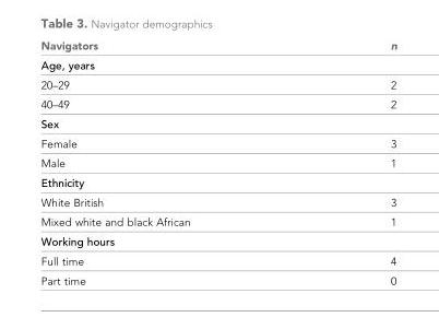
<table><thead><tr><td>Navigators</td><td>n</td></tr></thead><tbody><tr><td colspan="2">Age, years</td></tr><tr><td>20–29</td><td>2</td></tr><tr><td>40–49</td><td>2</td></tr><tr><td colspan="2">Sex</td></tr><tr><td>Female</td><td>3</td></tr><tr><td>Male</td><td>1</td></tr><tr><td colspan="2">Ethnicity</td></tr><tr><td>White British</td><td>3</td></tr><tr><td>Mixed white and black African</td><td>1</td></tr><tr><td colspan="2">Working hours</td></tr><tr><td>Full time</td><td>4</td></tr><tr><td>Part time</td><td>0</td></tr></tbody></table>